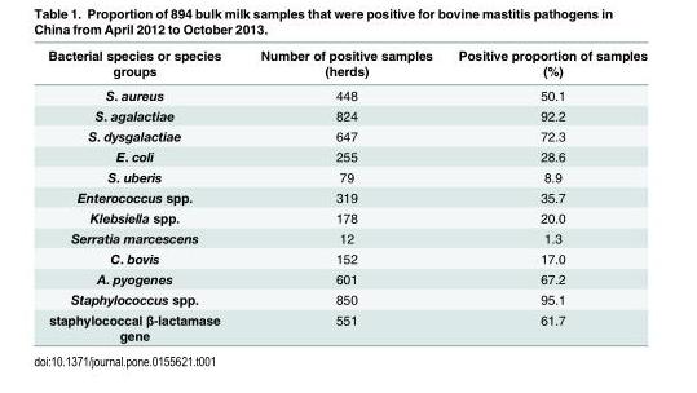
<table><thead><tr><td>Bacterial species or species groups</td><td>Number of positive samples (herds)</td><td>Positive proportion of samples (%)</td></tr></thead><tbody><tr><td>S. aureus</td><td>448</td><td>50.1</td></tr><tr><td>S. agalactiae</td><td>824</td><td>92.2</td></tr><tr><td>S. dysgalactiae</td><td>647</td><td>72.3</td></tr><tr><td>E. coli</td><td>255</td><td>28.6</td></tr><tr><td>S. uberis</td><td>79</td><td>8.9</td></tr><tr><td>Enterococcus spp.</td><td>319</td><td>35.7</td></tr><tr><td>Klebsiella spp.</td><td>178</td><td>20.0</td></tr><tr><td>Serratia marcescens</td><td>12</td><td>1.3</td></tr><tr><td>C. bovis</td><td>152</td><td>17.0</td></tr><tr><td>A. pyogenes</td><td>601</td><td>67.2</td></tr><tr><td>Staphylococcus spp.</td><td>850</td><td>95.1</td></tr><tr><td>staphylococcal β-lactamase gene</td><td>551</td><td>61.7</td></tr></tbody></table>